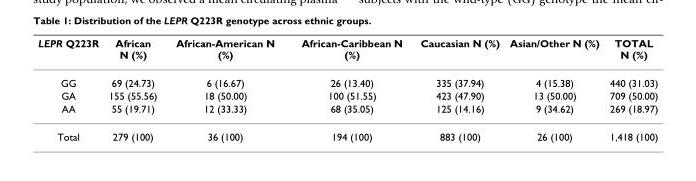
<table><thead><tr><td>LEPR Q223R</td><td>African N (%)</td><td>African-American N (%)</td><td>African-Caribbean N (%)</td><td>Caucasian N (%)</td><td>Asian/Other N (%)</td><td>TOTAL N (%)</td></tr></thead><tbody><tr><td>GG</td><td>69 (24.73)</td><td>6 (16.67)</td><td>26 (13.40)</td><td>335 (37.94)</td><td>4 (15.38)</td><td>440 (31.03)</td></tr><tr><td>GA</td><td>155 (55.56)</td><td>18 (50.00)</td><td>100 (51.55)</td><td>423 (47.90)</td><td>13 (50.00)</td><td>709 (50.00)</td></tr><tr><td>AA</td><td>55 (19.71)</td><td>12 (33.33)</td><td>68 (35.05)</td><td>125 (14.16)</td><td>9 (34.62)</td><td>269 (18.97)</td></tr><tr><td>Total</td><td>279 (100)</td><td>36 (100)</td><td>194 (100)</td><td>883 (100)</td><td>26 (100)</td><td>1,418 (100)</td></tr></tbody></table>